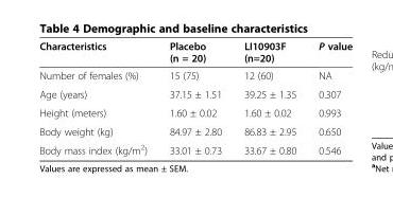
<table><thead><tr><td>Characteristics</td><td>Placebo (n = 20)</td><td>LI10903F (n=20)</td><td>P value</td></tr></thead><tbody><tr><td>Number of females (%)</td><td>15 (75)</td><td>12 (60)</td><td>NA</td></tr><tr><td>Age (years)</td><td>37.15 ± 1.51</td><td>39.25 ± 1.35</td><td>0.307</td></tr><tr><td>Height (meters)</td><td>1.60 ± 0.02</td><td>1.60 ± 0.02</td><td>0.993</td></tr><tr><td>Body weight (kg)</td><td>84.97 ± 2.80</td><td>86.83 ± 2.95</td><td>0.650</td></tr><tr><td>Body mass index (kg/m<sup>2</sup>)</td><td>33.01 ± 0.73</td><td>33.67 ± 0.80</td><td>0.546</td></tr></tbody></table>